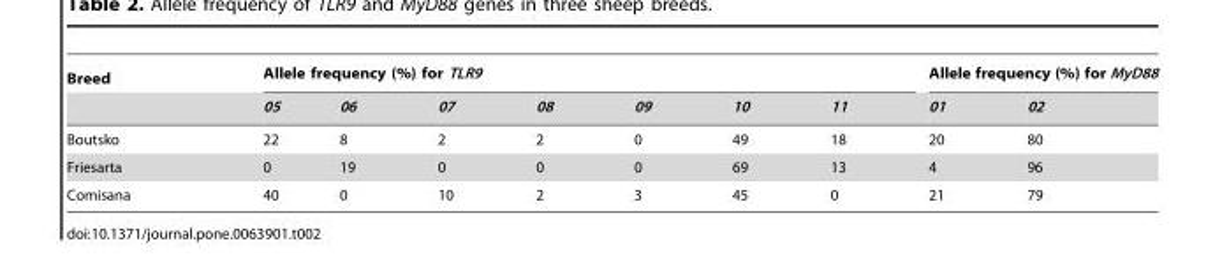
<table><thead><tr><td rowspan="2">Breed</td><td colspan="7">Allele frequency (%) for TLR9</td><td colspan="2">Allele frequency (%) for MyD88</td></tr><tr><td>05</td><td>06</td><td>07</td><td>08</td><td>09</td><td>10</td><td>11</td><td>01</td><td>02</td></tr></thead><tbody><tr><td>Boutsko</td><td>22</td><td>8</td><td>2</td><td>2</td><td>0</td><td>49</td><td>18</td><td>20</td><td>80</td></tr><tr><td>Friesarta</td><td>0</td><td>19</td><td>0</td><td>0</td><td>0</td><td>69</td><td>13</td><td>4</td><td>96</td></tr><tr><td>Comisana</td><td>40</td><td>0</td><td>10</td><td>2</td><td>3</td><td>45</td><td>0</td><td>21</td><td>79</td></tr></tbody></table>